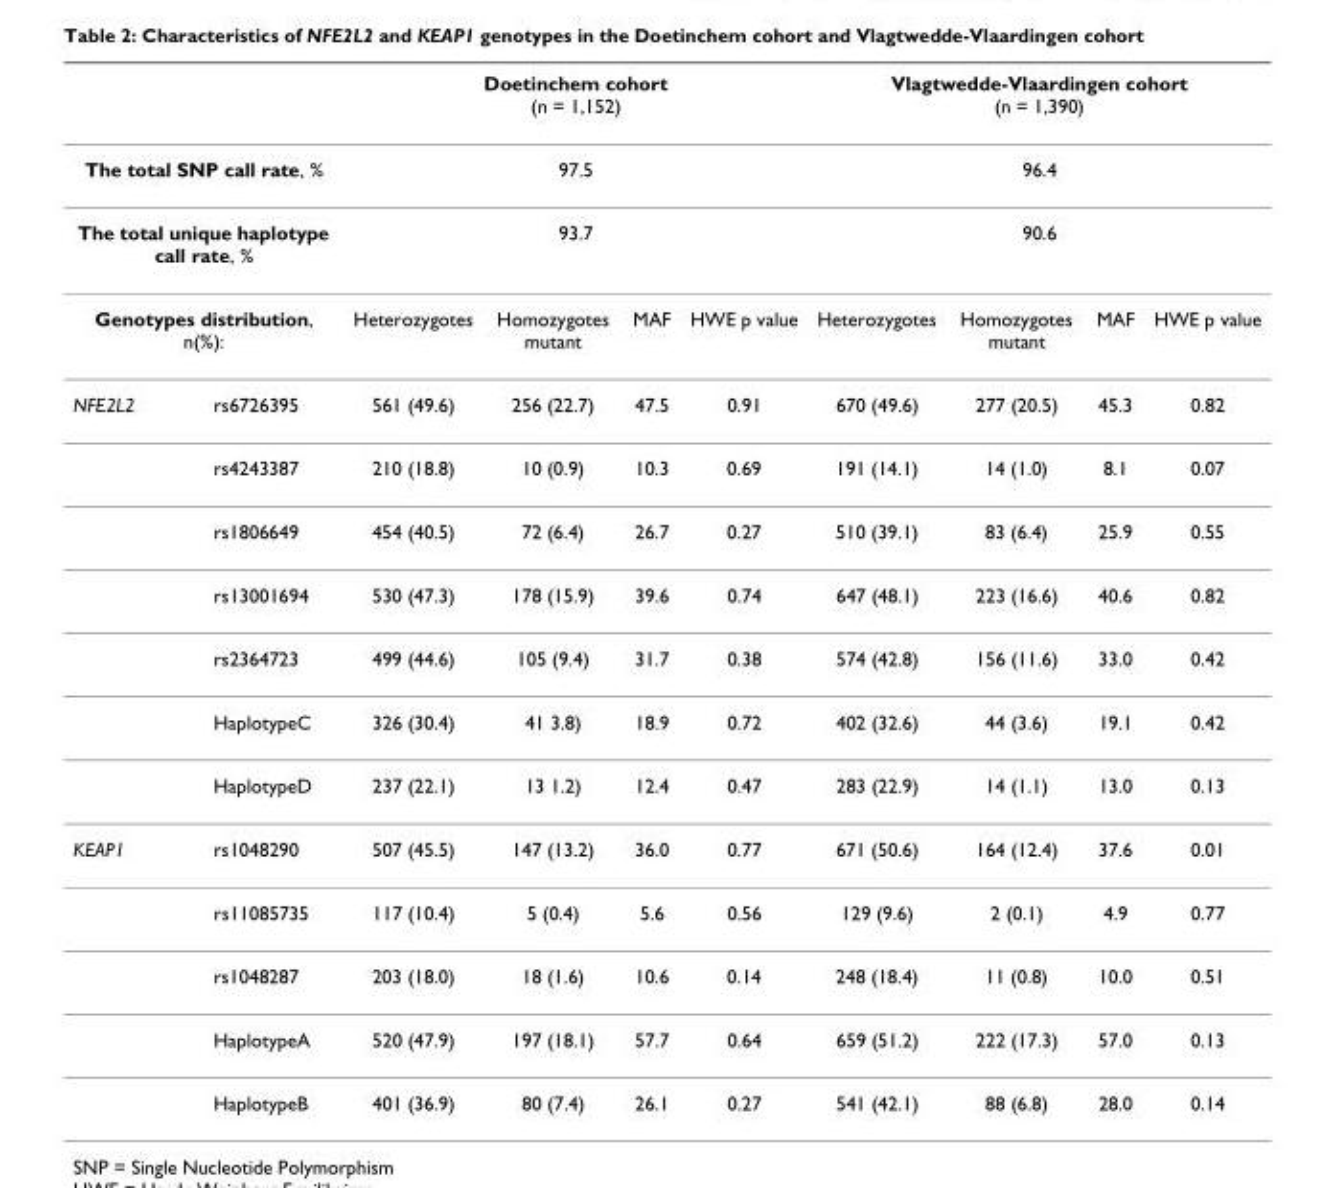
<table><thead><tr><td></td><td></td><td rowspan="3" colspan="4">Doetinchem cohort (n = 1,152) 97.5 93.7</td><td rowspan="3" colspan="4">Vlagtwedde-Vlaardingen cohort (n = 1,390) 96.4 90.6</td></tr><tr><td rowspan="3" colspan="2">The total SNP call rate, % The total unique haplotype call rate, % Genotypes distribution, n(%):</td></tr><tr></tr><tr><td>Heterozygotes</td><td>Homozygotes mutant</td><td>MAF</td><td>HWE p value</td><td>Heterozygotes</td><td>Homozygotes mutant</td><td>MAF</td><td>HWE p value</td></tr></thead><tbody><tr><td rowspan="7">NFE2L2</td><td>rs6726395</td><td>561 (49.6)</td><td>256 (22.7)</td><td>47.5</td><td>0.91</td><td>670 (49.6)</td><td>277 (20.5)</td><td>45.3</td><td>0.82</td></tr><tr><td>rs4243387</td><td>210 (18.8)</td><td>10 (0.9)</td><td>10.3</td><td>0.69</td><td>191 (14.1)</td><td>14 (1.0)</td><td>8.1</td><td>0.07</td></tr><tr><td>rs1806649</td><td>454 (40.5)</td><td>72 (6.4)</td><td>26.7</td><td>0.27</td><td>510 (39.1)</td><td>83 (6.4)</td><td>25.9</td><td>0.55</td></tr><tr><td>rs13001694</td><td>530 (47.3)</td><td>178 (15.9)</td><td>39.6</td><td>0.74</td><td>647 (48.1)</td><td>223 (16.6)</td><td>40.6</td><td>0.82</td></tr><tr><td>rs2364723</td><td>499 (44.6)</td><td>105 (9.4)</td><td>31.7</td><td>0.38</td><td>574 (42.8)</td><td>156 (11.6)</td><td>33.0</td><td>0.42</td></tr><tr><td>HaplotypeC</td><td>326 (30.4)</td><td>41 3.8)</td><td>18.9</td><td>0.72</td><td>402 (32.6)</td><td>44 (3.6)</td><td>19.1</td><td>0.42</td></tr><tr><td>HaplotypeD</td><td>237 (22.1)</td><td>13 1.2)</td><td>12.4</td><td>0.47</td><td>283 (22.9)</td><td>14 (1.1)</td><td>13.0</td><td>0.13</td></tr><tr><td rowspan="5">KEAP1</td><td>rs1048290</td><td>507 (45.5)</td><td>147 (13.2)</td><td>36.0</td><td>0.77</td><td>671 (50.6)</td><td>164 (12.4)</td><td>37.6</td><td>0.01</td></tr><tr><td>rs11085735</td><td>117 (10.4)</td><td>5 (0.4)</td><td>5.6</td><td>0.56</td><td>129 (9.6)</td><td>2 (0.1)</td><td>4.9</td><td>0.77</td></tr><tr><td>rs1048287</td><td>203 (18.0)</td><td>18 (1.6)</td><td>10.6</td><td>0.14</td><td>248 (18.4)</td><td>11 (0.8)</td><td>10.0</td><td>0.51</td></tr><tr><td>HaplotypeA</td><td>520 (47.9)</td><td>197 (18.1)</td><td>57.7</td><td>0.64</td><td>659 (51.2)</td><td>222 (17.3)</td><td>57.0</td><td>0.13</td></tr><tr><td>HaplotypeB</td><td>401 (36.9)</td><td>80 (7.4)</td><td>26.1</td><td>0.27</td><td>541 (42.1)</td><td>88 (6.8)</td><td>28.0</td><td>0.14</td></tr></tbody></table>